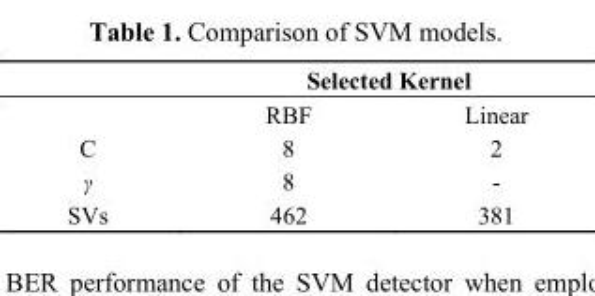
<table><thead><tr><td rowspan="2"></td><td colspan="2">Selected Kernel</td></tr><tr><td>RBF</td><td>Linear</td></tr></thead><tbody><tr><td>C</td><td>8</td><td>2</td></tr><tr><td>γ</td><td>8</td><td>-</td></tr><tr><td>SVs</td><td>462</td><td>381</td></tr></tbody></table>